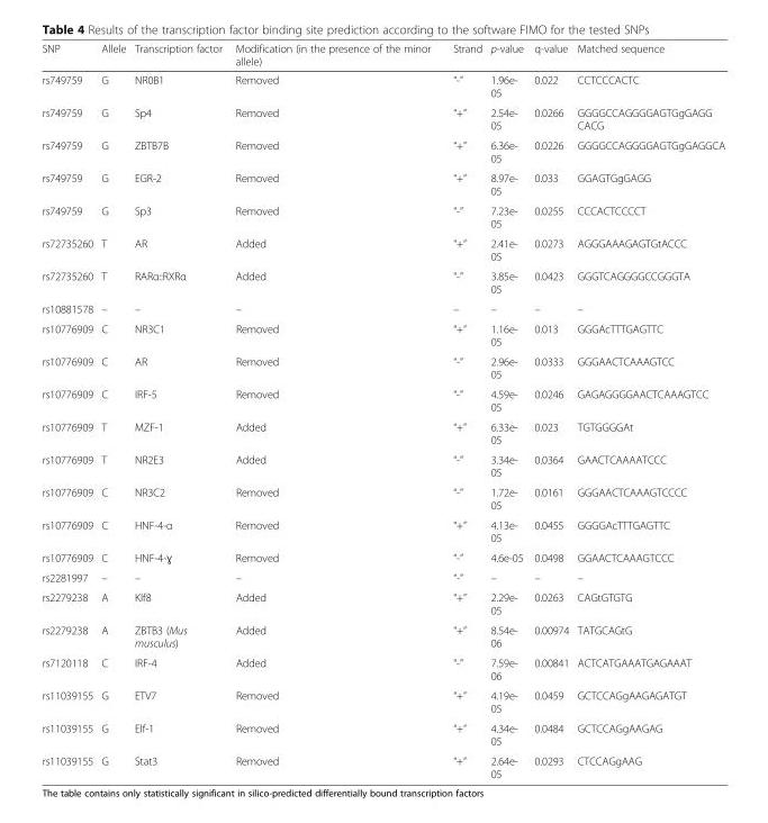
<table><thead><tr><td>SNP</td><td>Allele</td><td>Transcription factor</td><td>Modification (in the presence of the minor allele)</td><td>Strand</td><td>p-value</td><td>q-value</td><td>Matched sequence</td></tr></thead><tbody><tr><td>rs749759</td><td>G</td><td>NR0B1</td><td>Removed</td><td>“-”</td><td>1.96e- 05</td><td>0.022</td><td>CCTCCCACTC</td></tr><tr><td>rs749759</td><td>G</td><td>Sp4</td><td>Removed</td><td>“+”</td><td>2.54e- 05</td><td>0.0266</td><td>GGGGCCAGGGGAGTGgGAGG CACG</td></tr><tr><td>rs749759</td><td>G</td><td>ZBTB7B</td><td>Removed</td><td>“+”</td><td>6.36e- 05</td><td>0.0226</td><td>GGGGCCAGGGGAGTGgGAGGCA</td></tr><tr><td>rs749759</td><td>G</td><td>EGR-2</td><td>Removed</td><td>“+”</td><td>8.97e- 05</td><td>0.033</td><td>GGAGTGgGAGG</td></tr><tr><td>rs749759</td><td>G</td><td>Sp3</td><td>Removed</td><td>“-”</td><td>7.23e- 05</td><td>0.0255</td><td>CCCACTCCCCT</td></tr><tr><td>rs72735260</td><td>T</td><td>AR</td><td>Added</td><td>“+”</td><td>2.41e- 05</td><td>0.0273</td><td>AGGGAAAGAGTGtACCC</td></tr><tr><td>rs72735260</td><td>T</td><td>RARα::RXRα</td><td>Added</td><td>“-”</td><td>3.85e- 05</td><td>0.0423</td><td>GGGTCAGGGGCCGGGTA</td></tr><tr><td>rs10881578</td><td>–</td><td>–</td><td>–</td><td>–</td><td>–</td><td>–</td><td>–</td></tr><tr><td>rs10776909</td><td>C</td><td>NR3C1</td><td>Removed</td><td>“+”</td><td>1.16e- 05</td><td>0.013</td><td>GGGAcTTTGAGTTC</td></tr><tr><td>rs10776909</td><td>C</td><td>AR</td><td>Removed</td><td>“-”</td><td>2.96e- 05</td><td>0.0333</td><td>GGGAACTCAAAGTCC</td></tr><tr><td>rs10776909</td><td>C</td><td>IRF-5</td><td>Removed</td><td>“-”</td><td>4.59e- 05</td><td>0.0246</td><td>GAGAGGGGAACTCAAAGTCC</td></tr><tr><td>rs10776909</td><td>T</td><td>MZF-1</td><td>Added</td><td>“+”</td><td>6.33e- 05</td><td>0.023</td><td>TGTGGGGAt</td></tr><tr><td>rs10776909</td><td>T</td><td>NR2E3</td><td>Added</td><td>“-”</td><td>3.34e- 05</td><td>0.0364</td><td>GAACTCAAAATCCC</td></tr><tr><td>rs10776909</td><td>C</td><td>NR3C2</td><td>Removed</td><td>“-”</td><td>1.72e- 05</td><td>0.0161</td><td>GGGAACTCAAAGTCCCC</td></tr><tr><td>rs10776909</td><td>C</td><td>HNF-4-α</td><td>Removed</td><td>“+”</td><td>4.13e- 05</td><td>0.0455</td><td>GGGGAcTTTGAGTTC</td></tr><tr><td>rs10776909</td><td>C</td><td>HNF-4-ɣ</td><td>Removed</td><td>“-”</td><td>4.6e-05</td><td>0.0498</td><td>GGAACTCAAAGTCCC</td></tr><tr><td>rs2281997</td><td>–</td><td>–</td><td>–</td><td>“-”</td><td>–</td><td>–</td><td>–</td></tr><tr><td>rs2279238</td><td>A</td><td>Klf8</td><td>Added</td><td>“+”</td><td>2.29e- 05</td><td>0.0263</td><td>CAGtGTGTG</td></tr><tr><td>rs2279238</td><td>A</td><td>ZBTB3 (Mus musculus)</td><td>Added</td><td>“+”</td><td>8.54e- 06</td><td>0.00974</td><td>TATGCAGtG</td></tr><tr><td>rs7120118</td><td>C</td><td>IRF-4</td><td>Added</td><td>“-”</td><td>7.59e- 06</td><td>0.00841</td><td>ACTCATGAAATGAGAAAT</td></tr><tr><td>rs11039155</td><td>G</td><td>ETV7</td><td>Removed</td><td>“+”</td><td>4.19e- 05</td><td>0.0459</td><td>GCTCCAGgAAGAGATGT</td></tr><tr><td>rs11039155</td><td>G</td><td>Elf-1</td><td>Removed</td><td>“+”</td><td>4.34e- 05</td><td>0.0484</td><td>GCTCCAGgAAGAG</td></tr><tr><td>rs11039155</td><td>G</td><td>Stat3</td><td>Removed</td><td>“+”</td><td>2.64e- 05</td><td>0.0293</td><td>CTCCAGgAAG</td></tr></tbody></table>